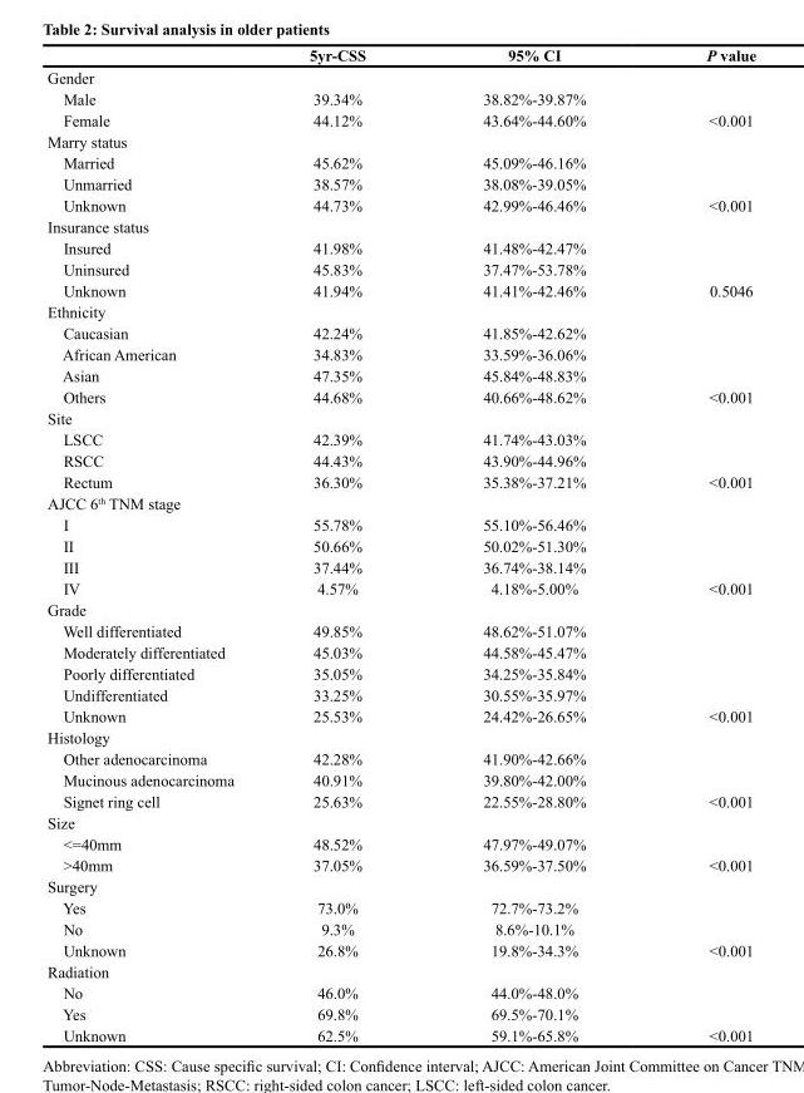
<table><thead><tr><td></td><td>5yr-CSS</td><td>95% CI</td><td>P value</td></tr></thead><tbody><tr><td colspan="4">Gender</td></tr><tr><td>Male</td><td>39.34%</td><td>38.82%-39.87%</td><td></td></tr><tr><td>Female</td><td>44.12%</td><td>43.64%-44.60%</td><td>&lt;0.001</td></tr><tr><td colspan="4">Marry status</td></tr><tr><td>Married</td><td>45.62%</td><td>45.09%-46.16%</td><td></td></tr><tr><td>Unmarried</td><td>38.57%</td><td>38.08%-39.05%</td><td></td></tr><tr><td>Unknown</td><td>44.73%</td><td>42.99%-46.46%</td><td>&lt;0.001</td></tr><tr><td colspan="4">Insurance status</td></tr><tr><td>Insured</td><td>41.98%</td><td>41.48%-42.47%</td><td></td></tr><tr><td>Uninsured</td><td>45.83%</td><td>37.47%-53.78%</td><td></td></tr><tr><td>Unknown</td><td>41.94%</td><td>41.41%-42.46%</td><td>0.5046</td></tr><tr><td colspan="4">Ethnicity</td></tr><tr><td>Caucasian</td><td>42.24%</td><td>41.85%-42.62%</td><td></td></tr><tr><td>African American</td><td>34.83%</td><td>33.59%-36.06%</td><td></td></tr><tr><td>Asian</td><td>47.35%</td><td>45.84%-48.83%</td><td></td></tr><tr><td>Others</td><td>44.68%</td><td>40.66%-48.62%</td><td>&lt;0.001</td></tr><tr><td colspan="4">Site</td></tr><tr><td>LSCC</td><td>42.39%</td><td>41.74%-43.03%</td><td></td></tr><tr><td>RSCC</td><td>44.43%</td><td>43.90%-44.96%</td><td></td></tr><tr><td>Rectum</td><td>36.30%</td><td>35.38%-37.21%</td><td>&lt;0.001</td></tr><tr><td colspan="4">AJCC 6<sup>th</sup> TNM stage</td></tr><tr><td>I</td><td>55.78%</td><td>55.10%-56.46%</td><td></td></tr><tr><td>II</td><td>50.66%</td><td>50.02%-51.30%</td><td></td></tr><tr><td>III</td><td>37.44%</td><td>36.74%-38.14%</td><td></td></tr><tr><td>IV</td><td>4.57%</td><td>4.18%-5.00%</td><td>&lt;0.001</td></tr><tr><td colspan="4">Grade</td></tr><tr><td>Well differentiated</td><td>49.85%</td><td>48.62%-51.07%</td><td></td></tr><tr><td>Moderately differentiated</td><td>45.03%</td><td>44.58%-45.47%</td><td></td></tr><tr><td>Poorly differentiated</td><td>35.05%</td><td>34.25%-35.84%</td><td></td></tr><tr><td>Undifferentiated</td><td>33.25%</td><td>30.55%-35.97%</td><td></td></tr><tr><td>Unknown</td><td>25.53%</td><td>24.42%-26.65%</td><td>&lt;0.001</td></tr><tr><td colspan="4">Histology</td></tr><tr><td>Other adenocarcinoma</td><td>42.28%</td><td>41.90%-42.66%</td><td></td></tr><tr><td>Mucinous adenocarcinoma</td><td>40.91%</td><td>39.80%-42.00%</td><td></td></tr><tr><td>Signet ring cell</td><td>25.63%</td><td>22.55%-28.80%</td><td>&lt;0.001</td></tr><tr><td colspan="4">Size</td></tr><tr><td>&lt;=40mm</td><td>48.52%</td><td>47.97%-49.07%</td><td></td></tr><tr><td>&gt;40mm</td><td>37.05%</td><td>36.59%-37.50%</td><td>&lt;0.001</td></tr><tr><td colspan="4">Surgery</td></tr><tr><td>Yes</td><td>73.0%</td><td>72.7%-73.2%</td><td></td></tr><tr><td>No</td><td>9.3%</td><td>8.6%-10.1%</td><td></td></tr><tr><td>Unknown</td><td>26.8%</td><td>19.8%-34.3%</td><td>&lt;0.001</td></tr><tr><td colspan="4">Radiation</td></tr><tr><td>No</td><td>46.0%</td><td>44.0%-48.0%</td><td></td></tr><tr><td>Yes</td><td>69.8%</td><td>69.5%-70.1%</td><td></td></tr><tr><td>Unknown</td><td>62.5%</td><td>59.1%-65.8%</td><td>&lt;0.001</td></tr></tbody></table>